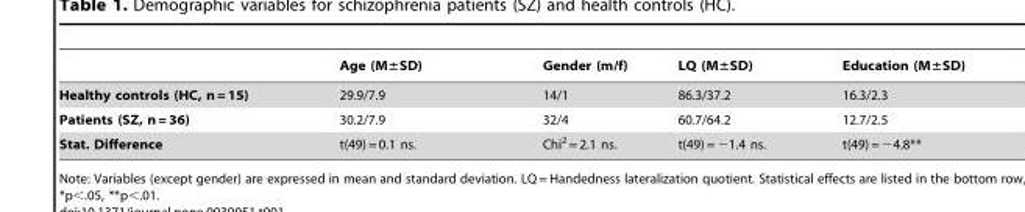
<table><thead><tr><td></td><td>Age (M±SD)</td><td>Gender (m/f)</td><td>LQ (M±SD)</td><td>Education (M±SD)</td></tr></thead><tbody><tr><td>Healthy controls (HC, n = 15)</td><td>29.9/7.9</td><td>14/1</td><td>86.3/37.2</td><td>16.3/2.3</td></tr><tr><td>Patients (SZ, n = 36)</td><td>30.2/7.9</td><td>32/4</td><td>60.7/64.2</td><td>12.7/2.5</td></tr><tr><td>Stat. Difference</td><td>t(49) = 0.1 ns.</td><td>Chi<sup>2</sup> = 2.1 ns.</td><td>t(49) = −1.4 ns.</td><td>t(49) = −4.8**</td></tr></tbody></table>